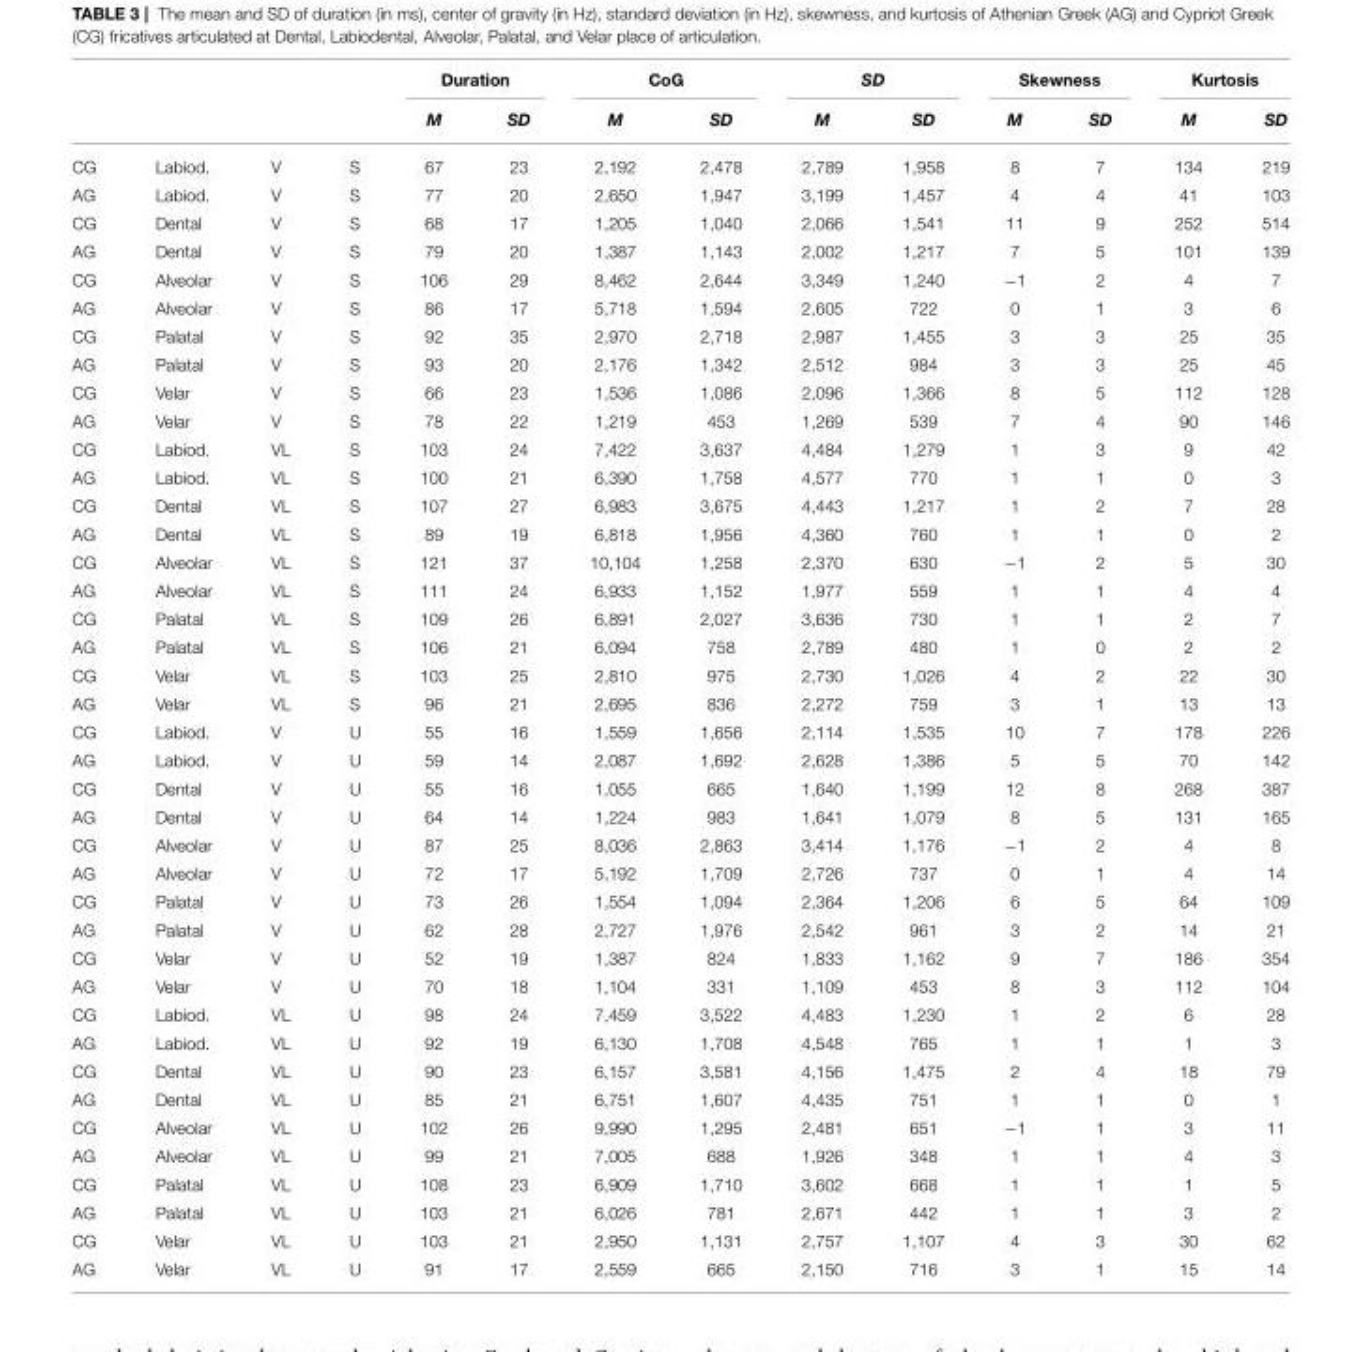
<table><thead><tr><td rowspan="2"></td><td rowspan="2"></td><td rowspan="2"></td><td rowspan="2"></td><td colspan="2">Duration</td><td colspan="2">CoG</td><td colspan="2">SD</td><td colspan="2">Skewness</td><td colspan="2">Kurtosis</td></tr><tr><td>M</td><td>SD</td><td>M</td><td>SD</td><td>M</td><td>SD</td><td>M</td><td>SD</td><td>M</td><td>SD</td></tr></thead><tbody><tr><td>CG</td><td>Labiod.</td><td>V</td><td>S</td><td>67</td><td>23</td><td>2,192</td><td>2,478</td><td>2,789</td><td>1,958</td><td>8</td><td>7</td><td>134</td><td>219</td></tr><tr><td>AG</td><td>Labiod.</td><td>V</td><td>S</td><td>77</td><td>20</td><td>2,650</td><td>1,947</td><td>3,199</td><td>1,457</td><td>4</td><td>4</td><td>41</td><td>103</td></tr><tr><td>CG</td><td>Dental</td><td>V</td><td>S</td><td>68</td><td>17</td><td>1,205</td><td>1,040</td><td>2,066</td><td>1,541</td><td>11</td><td>9</td><td>252</td><td>514</td></tr><tr><td>AG</td><td>Dental</td><td>V</td><td>S</td><td>79</td><td>20</td><td>1,387</td><td>1,143</td><td>2,002</td><td>1,217</td><td>7</td><td>5</td><td>101</td><td>139</td></tr><tr><td>CG</td><td>Alveolar</td><td>V</td><td>S</td><td>106</td><td>29</td><td>8,462</td><td>2,644</td><td>3,349</td><td>1,240</td><td>−1</td><td>2</td><td>4</td><td>7</td></tr><tr><td>AG</td><td>Alveolar</td><td>V</td><td>S</td><td>86</td><td>17</td><td>5,718</td><td>1,594</td><td>2,605</td><td>722</td><td>0</td><td>1</td><td>3</td><td>6</td></tr><tr><td>CG</td><td>Palatal</td><td>V</td><td>S</td><td>92</td><td>35</td><td>2,970</td><td>2,718</td><td>2,987</td><td>1,455</td><td>3</td><td>3</td><td>25</td><td>35</td></tr><tr><td>AG</td><td>Palatal</td><td>V</td><td>S</td><td>93</td><td>20</td><td>2,176</td><td>1,342</td><td>2,512</td><td>984</td><td>3</td><td>3</td><td>25</td><td>45</td></tr><tr><td>CG</td><td>Velar</td><td>V</td><td>S</td><td>66</td><td>23</td><td>1,536</td><td>1,086</td><td>2,096</td><td>1,366</td><td>8</td><td>5</td><td>112</td><td>128</td></tr><tr><td>AG</td><td>Velar</td><td>V</td><td>S</td><td>78</td><td>22</td><td>1,219</td><td>453</td><td>1,269</td><td>539</td><td>7</td><td>4</td><td>90</td><td>146</td></tr><tr><td>CG</td><td>Labiod.</td><td>VL</td><td>S</td><td>103</td><td>24</td><td>7,422</td><td>3,637</td><td>4,484</td><td>1,279</td><td>1</td><td>3</td><td>9</td><td>42</td></tr><tr><td>AG</td><td>Labiod.</td><td>VL</td><td>S</td><td>100</td><td>21</td><td>6,390</td><td>1,758</td><td>4,577</td><td>770</td><td>1</td><td>1</td><td>0</td><td>3</td></tr><tr><td>CG</td><td>Dental</td><td>VL</td><td>S</td><td>107</td><td>27</td><td>6,983</td><td>3,675</td><td>4,443</td><td>1,217</td><td>1</td><td>2</td><td>7</td><td>28</td></tr><tr><td>AG</td><td>Dental</td><td>VL</td><td>S</td><td>89</td><td>19</td><td>6,818</td><td>1,956</td><td>4,360</td><td>760</td><td>1</td><td>1</td><td>0</td><td>2</td></tr><tr><td>CG</td><td>Alveolar</td><td>VL</td><td>S</td><td>121</td><td>37</td><td>10,104</td><td>1,258</td><td>2,370</td><td>630</td><td>−1</td><td>2</td><td>5</td><td>30</td></tr><tr><td>AG</td><td>Alveolar</td><td>VL</td><td>S</td><td>111</td><td>24</td><td>6,933</td><td>1,152</td><td>1,977</td><td>559</td><td>1</td><td>1</td><td>4</td><td>4</td></tr><tr><td>CG</td><td>Palatal</td><td>VL</td><td>S</td><td>109</td><td>26</td><td>6,891</td><td>2,027</td><td>3,636</td><td>730</td><td>1</td><td>1</td><td>2</td><td>7</td></tr><tr><td>AG</td><td>Palatal</td><td>VL</td><td>S</td><td>106</td><td>21</td><td>6,094</td><td>758</td><td>2,789</td><td>480</td><td>1</td><td>0</td><td>2</td><td>2</td></tr><tr><td>CG</td><td>Velar</td><td>VL</td><td>S</td><td>103</td><td>25</td><td>2,810</td><td>975</td><td>2,730</td><td>1,026</td><td>4</td><td>2</td><td>22</td><td>30</td></tr><tr><td>AG</td><td>Velar</td><td>VL</td><td>S</td><td>96</td><td>21</td><td>2,695</td><td>836</td><td>2,272</td><td>759</td><td>3</td><td>1</td><td>13</td><td>13</td></tr><tr><td>CG</td><td>Labiod.</td><td>V</td><td>U</td><td>55</td><td>16</td><td>1,559</td><td>1,656</td><td>2,114</td><td>1,535</td><td>10</td><td>7</td><td>178</td><td>226</td></tr><tr><td>AG</td><td>Labiod.</td><td>V</td><td>U</td><td>59</td><td>14</td><td>2,087</td><td>1,692</td><td>2,628</td><td>1,386</td><td>5</td><td>5</td><td>70</td><td>142</td></tr><tr><td>CG</td><td>Dental</td><td>V</td><td>U</td><td>55</td><td>16</td><td>1,055</td><td>665</td><td>1,640</td><td>1,199</td><td>12</td><td>8</td><td>268</td><td>387</td></tr><tr><td>AG</td><td>Dental</td><td>V</td><td>U</td><td>64</td><td>14</td><td>1,224</td><td>983</td><td>1,641</td><td>1,079</td><td>8</td><td>5</td><td>131</td><td>165</td></tr><tr><td>CG</td><td>Alveolar</td><td>V</td><td>U</td><td>87</td><td>25</td><td>8,036</td><td>2,863</td><td>3,414</td><td>1,176</td><td>−1</td><td>2</td><td>4</td><td>8</td></tr><tr><td>AG</td><td>Alveolar</td><td>V</td><td>U</td><td>72</td><td>17</td><td>5,192</td><td>1,709</td><td>2,726</td><td>737</td><td>0</td><td>1</td><td>4</td><td>14</td></tr><tr><td>CG</td><td>Palatal</td><td>V</td><td>U</td><td>73</td><td>26</td><td>1,554</td><td>1,094</td><td>2,364</td><td>1,206</td><td>6</td><td>5</td><td>64</td><td>109</td></tr><tr><td>AG</td><td>Palatal</td><td>V</td><td>U</td><td>62</td><td>28</td><td>2,727</td><td>1,976</td><td>2,542</td><td>961</td><td>3</td><td>2</td><td>14</td><td>21</td></tr><tr><td>CG</td><td>Velar</td><td>V</td><td>U</td><td>52</td><td>19</td><td>1,387</td><td>824</td><td>1,833</td><td>1,162</td><td>9</td><td>7</td><td>186</td><td>354</td></tr><tr><td>AG</td><td>Velar</td><td>V</td><td>U</td><td>70</td><td>18</td><td>1,104</td><td>331</td><td>1,109</td><td>453</td><td>8</td><td>3</td><td>112</td><td>104</td></tr><tr><td>CG</td><td>Labiod.</td><td>VL</td><td>U</td><td>98</td><td>24</td><td>7,459</td><td>3,522</td><td>4,483</td><td>1,230</td><td>1</td><td>2</td><td>6</td><td>28</td></tr><tr><td>AG</td><td>Labiod.</td><td>VL</td><td>U</td><td>92</td><td>19</td><td>6,130</td><td>1,708</td><td>4,548</td><td>765</td><td>1</td><td>1</td><td>1</td><td>3</td></tr><tr><td>CG</td><td>Dental</td><td>VL</td><td>U</td><td>90</td><td>23</td><td>6,157</td><td>3,581</td><td>4,156</td><td>1,475</td><td>2</td><td>4</td><td>18</td><td>79</td></tr><tr><td>AG</td><td>Dental</td><td>VL</td><td>U</td><td>85</td><td>21</td><td>6,751</td><td>1,607</td><td>4,435</td><td>751</td><td>1</td><td>1</td><td>0</td><td>1</td></tr><tr><td>CG</td><td>Alveolar</td><td>VL</td><td>U</td><td>102</td><td>26</td><td>9,990</td><td>1,295</td><td>2,481</td><td>651</td><td>−1</td><td>1</td><td>3</td><td>11</td></tr><tr><td>AG</td><td>Alveolar</td><td>VL</td><td>U</td><td>99</td><td>21</td><td>7,005</td><td>688</td><td>1,926</td><td>348</td><td>1</td><td>1</td><td>4</td><td>3</td></tr><tr><td>CG</td><td>Palatal</td><td>VL</td><td>U</td><td>108</td><td>23</td><td>6,909</td><td>1,710</td><td>3,602</td><td>668</td><td>1</td><td>1</td><td>1</td><td>5</td></tr><tr><td>AG</td><td>Palatal</td><td>VL</td><td>U</td><td>103</td><td>21</td><td>6,026</td><td>781</td><td>2,671</td><td>442</td><td>1</td><td>1</td><td>3</td><td>2</td></tr><tr><td>CG</td><td>Velar</td><td>VL</td><td>U</td><td>103</td><td>21</td><td>2,950</td><td>1,131</td><td>2,757</td><td>1,107</td><td>4</td><td>3</td><td>30</td><td>62</td></tr><tr><td>AG</td><td>Velar</td><td>VL</td><td>U</td><td>91</td><td>17</td><td>2,559</td><td>665</td><td>2,150</td><td>716</td><td>3</td><td>1</td><td>15</td><td>14</td></tr></tbody></table>